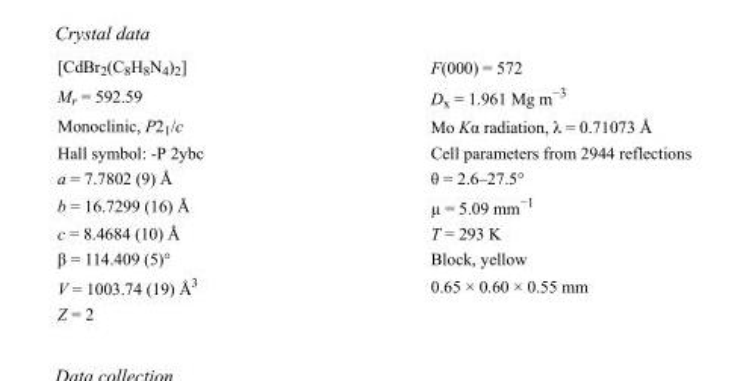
<table><tbody><tr><td>[CdBr<sub>2</sub>(C<sub>8</sub>H<sub>8</sub>N<sub>4</sub>)<sub>2</sub>]</td><td>F(000) = 572</td></tr><tr><td>M<sub>r</sub> = 592.59</td><td>D<sub>x</sub> = 1.961 Mg m<sup>−3</sup></td></tr><tr><td>Monoclinic, P2<sub>1</sub>/c</td><td>Mo Kα radiation, λ = 0.71073 Å</td></tr><tr><td>Hall symbol: -P 2ybc</td><td>Cell parameters from 2944 reflections</td></tr><tr><td>a = 7.7802 (9) Å</td><td>θ = 2.6–27.5°</td></tr><tr><td>b = 16.7299 (16) Å</td><td>µ = 5.09 mm<sup>−1</sup></td></tr><tr><td>c = 8.4684 (10) Å</td><td>T = 293 K</td></tr><tr><td>β = 114.409 (5)°</td><td>Block, yellow</td></tr><tr><td>V = 1003.74 (19) Å<sup>3</sup></td><td>0.65 × 0.60 × 0.55 mm</td></tr><tr><td>Z = 2</td><td></td></tr></tbody></table>